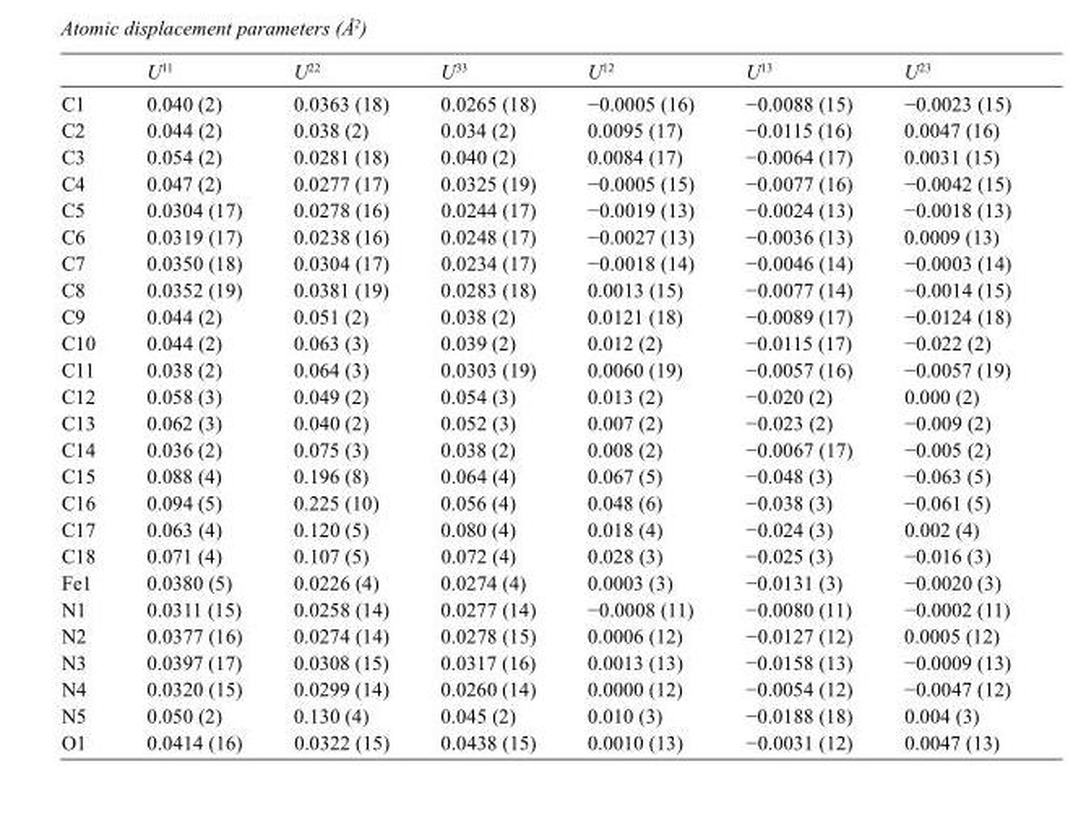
<table><thead><tr><td></td><td>U<sup>11</sup></td><td>U<sup>22</sup></td><td>U<sup>33</sup></td><td>U<sup>12</sup></td><td>U<sup>13</sup></td><td>U<sup>23</sup></td></tr></thead><tbody><tr><td>C1</td><td>0.040 (2)</td><td>0.0363 (18)</td><td>0.0265 (18)</td><td>−0.0005 (16)</td><td>−0.0088 (15)</td><td>−0.0023 (15)</td></tr><tr><td>C2</td><td>0.044 (2)</td><td>0.038 (2)</td><td>0.034 (2)</td><td>0.0095 (17)</td><td>−0.0115 (16)</td><td>0.0047 (16)</td></tr><tr><td>C3</td><td>0.054 (2)</td><td>0.0281 (18)</td><td>0.040 (2)</td><td>0.0084 (17)</td><td>−0.0064 (17)</td><td>0.0031 (15)</td></tr><tr><td>C4</td><td>0.047 (2)</td><td>0.0277 (17)</td><td>0.0325 (19)</td><td>−0.0005 (15)</td><td>−0.0077 (16)</td><td>−0.0042 (15)</td></tr><tr><td>C5</td><td>0.0304 (17)</td><td>0.0278 (16)</td><td>0.0244 (17)</td><td>−0.0019 (13)</td><td>−0.0024 (13)</td><td>−0.0018 (13)</td></tr><tr><td>C6</td><td>0.0319 (17)</td><td>0.0238 (16)</td><td>0.0248 (17)</td><td>−0.0027 (13)</td><td>−0.0036 (13)</td><td>0.0009 (13)</td></tr><tr><td>C7</td><td>0.0350 (18)</td><td>0.0304 (17)</td><td>0.0234 (17)</td><td>−0.0018 (14)</td><td>−0.0046 (14)</td><td>−0.0003 (14)</td></tr><tr><td>C8</td><td>0.0352 (19)</td><td>0.0381 (19)</td><td>0.0283 (18)</td><td>0.0013 (15)</td><td>−0.0077 (14)</td><td>−0.0014 (15)</td></tr><tr><td>C9</td><td>0.044 (2)</td><td>0.051 (2)</td><td>0.038 (2)</td><td>0.0121 (18)</td><td>−0.0089 (17)</td><td>−0.0124 (18)</td></tr><tr><td>C10</td><td>0.044 (2)</td><td>0.063 (3)</td><td>0.039 (2)</td><td>0.012 (2)</td><td>−0.0115 (17)</td><td>−0.022 (2)</td></tr><tr><td>C11</td><td>0.038 (2)</td><td>0.064 (3)</td><td>0.0303 (19)</td><td>0.0060 (19)</td><td>−0.0057 (16)</td><td>−0.0057 (19)</td></tr><tr><td>C12</td><td>0.058 (3)</td><td>0.049 (2)</td><td>0.054 (3)</td><td>0.013 (2)</td><td>−0.020 (2)</td><td>0.000 (2)</td></tr><tr><td>C13</td><td>0.062 (3)</td><td>0.040 (2)</td><td>0.052 (3)</td><td>0.007 (2)</td><td>−0.023 (2)</td><td>−0.009 (2)</td></tr><tr><td>C14</td><td>0.036 (2)</td><td>0.075 (3)</td><td>0.038 (2)</td><td>0.008 (2)</td><td>−0.0067 (17)</td><td>−0.005 (2)</td></tr><tr><td>C15</td><td>0.088 (4)</td><td>0.196 (8)</td><td>0.064 (4)</td><td>0.067 (5)</td><td>−0.048 (3)</td><td>−0.063 (5)</td></tr><tr><td>C16</td><td>0.094 (5)</td><td>0.225 (10)</td><td>0.056 (4)</td><td>0.048 (6)</td><td>−0.038 (3)</td><td>−0.061 (5)</td></tr><tr><td>C17</td><td>0.063 (4)</td><td>0.120 (5)</td><td>0.080 (4)</td><td>0.018 (4)</td><td>−0.024 (3)</td><td>0.002 (4)</td></tr><tr><td>C18</td><td>0.071 (4)</td><td>0.107 (5)</td><td>0.072 (4)</td><td>0.028 (3)</td><td>−0.025 (3)</td><td>−0.016 (3)</td></tr><tr><td>Fe1</td><td>0.0380 (5)</td><td>0.0226 (4)</td><td>0.0274 (4)</td><td>0.0003 (3)</td><td>−0.0131 (3)</td><td>−0.0020 (3)</td></tr><tr><td>N1</td><td>0.0311 (15)</td><td>0.0258 (14)</td><td>0.0277 (14)</td><td>−0.0008 (11)</td><td>−0.0080 (11)</td><td>−0.0002 (11)</td></tr><tr><td>N2</td><td>0.0377 (16)</td><td>0.0274 (14)</td><td>0.0278 (15)</td><td>0.0006 (12)</td><td>−0.0127 (12)</td><td>0.0005 (12)</td></tr><tr><td>N3</td><td>0.0397 (17)</td><td>0.0308 (15)</td><td>0.0317 (16)</td><td>0.0013 (13)</td><td>−0.0158 (13)</td><td>−0.0009 (13)</td></tr><tr><td>N4</td><td>0.0320 (15)</td><td>0.0299 (14)</td><td>0.0260 (14)</td><td>0.0000 (12)</td><td>−0.0054 (12)</td><td>−0.0047 (12)</td></tr><tr><td>N5</td><td>0.050 (2)</td><td>0.130 (4)</td><td>0.045 (2)</td><td>0.010 (3)</td><td>−0.0188 (18)</td><td>0.004 (3)</td></tr><tr><td>O1</td><td>0.0414 (16)</td><td>0.0322 (15)</td><td>0.0438 (15)</td><td>0.0010 (13)</td><td>−0.0031 (12)</td><td>0.0047 (13)</td></tr></tbody></table>